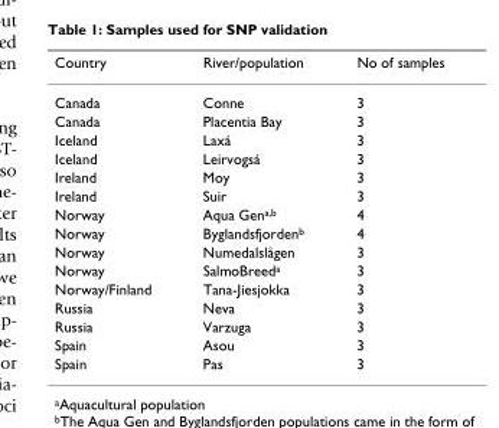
<table><thead><tr><td>Country</td><td>River/population</td><td>No of samples</td></tr></thead><tbody><tr><td>Canada</td><td>Conne</td><td>3</td></tr><tr><td>Canada</td><td>Placentia Bay</td><td>3</td></tr><tr><td>Iceland</td><td>Laxá</td><td>3</td></tr><tr><td>Iceland</td><td>Leirvogsá</td><td>3</td></tr><tr><td>Ireland</td><td>Moy</td><td>3</td></tr><tr><td>Ireland</td><td>Suir</td><td>3</td></tr><tr><td>Norway</td><td>Aqua Gen<sup>a,b</sup></td><td>4</td></tr><tr><td>Norway</td><td>Byglandsfjorden<sup>b</sup></td><td>4</td></tr><tr><td>Norway</td><td>Numedalslågen</td><td>3</td></tr><tr><td>Norway</td><td>SalmoBreed<sup>a</sup></td><td>3</td></tr><tr><td>Norway/Finland</td><td>Tana-Jiesjokka</td><td>3</td></tr><tr><td>Russia</td><td>Neva</td><td>3</td></tr><tr><td>Russia</td><td>Varzuga</td><td>3</td></tr><tr><td>Spain</td><td>Asou</td><td>3</td></tr><tr><td>Spain</td><td>Pas</td><td>3</td></tr></tbody></table>